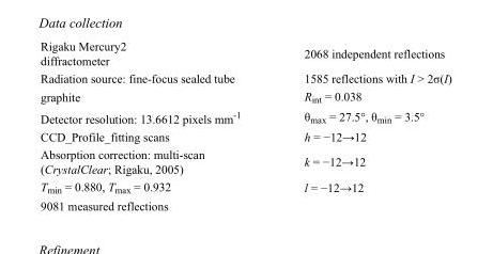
<table><tbody><tr><td>Rigaku Mercury2 diffractometer</td><td>2068 independent reflections</td></tr><tr><td>Radiation source: fine-focus sealed tube</td><td>1585 reflections with I &gt; 2σ(I)</td></tr><tr><td>graphite</td><td>R<sub>int</sub> = 0.038</td></tr><tr><td>Detector resolution: 13.6612 pixels mm<sup>-1</sup></td><td>θ<sub>max</sub> = 27.5°, θ<sub>min</sub> = 3.5°</td></tr><tr><td>CCD_Profile_fitting scans</td><td>h = −12→12</td></tr><tr><td>Absorption correction: multi-scan (CrystalClear; Rigaku, 2005)</td><td>k = −12→12</td></tr><tr><td>T<sub>min</sub> = 0.880, T<sub>max</sub> = 0.932</td><td>l = −12→12</td></tr><tr><td>9081 measured reflections</td><td></td></tr></tbody></table>